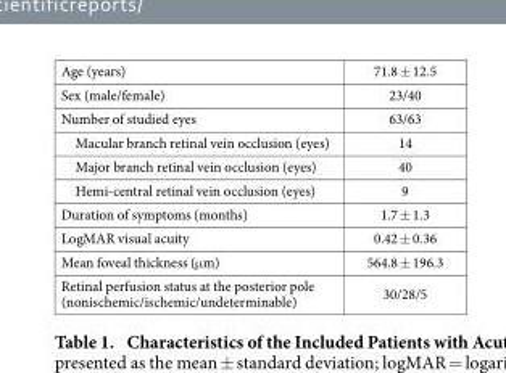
<table><tbody><tr><td>Age (years)</td><td>71.8 ± 12.5</td></tr><tr><td>Sex (male/female)</td><td>23/40</td></tr><tr><td>Number of studied eyes</td><td>63/63</td></tr><tr><td>Macular branch retinal vein occlusion (eyes)</td><td>14</td></tr><tr><td>Major branch retinal vein occlusion (eyes)</td><td>40</td></tr><tr><td>Hemi-central retinal vein occlusion (eyes)</td><td>9</td></tr><tr><td>Duration of symptoms (months)</td><td>1.7 ± 1.3</td></tr><tr><td>LogMAR visual acuity</td><td>0.42 ± 0.36</td></tr><tr><td>Mean foveal thickness (μ m)</td><td>564.8 ± 196.3</td></tr><tr><td>Retinal perfusion status at the posterior pole (nonischemic/ischemic/undeterminable)</td><td>30/28/5</td></tr></tbody></table>